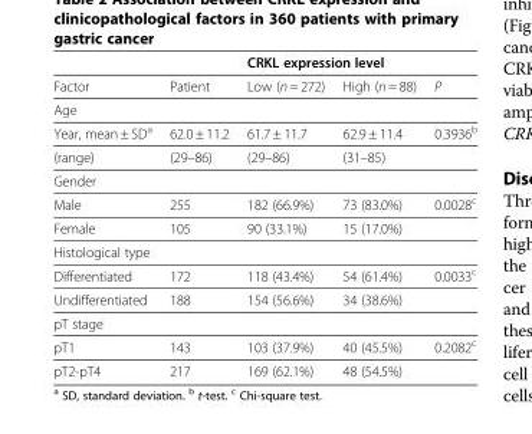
<table><thead><tr><td rowspan="2">Factor</td><td rowspan="2">Patient</td><td colspan="2">CRKL expression level</td><td rowspan="2">P</td></tr><tr><td>Low (n = 272)</td><td>High (n = 88)</td></tr></thead><tbody><tr><td colspan="5">Age</td></tr><tr><td>Year, mean ± SD<sup>a</sup></td><td>62.0 ± 11.2</td><td>61.7 ± 11.7</td><td>62.9 ± 11.4</td><td>0.3936<sup>b</sup></td></tr><tr><td>(range)</td><td>(29–86)</td><td>(29–86)</td><td>(31–85)</td><td></td></tr><tr><td colspan="5">Gender</td></tr><tr><td>Male</td><td>255</td><td>182 (66.9%)</td><td>73 (83.0%)</td><td>0.0028<sup>c</sup></td></tr><tr><td>Female</td><td>105</td><td>90 (33.1%)</td><td>15 (17.0%)</td><td></td></tr><tr><td colspan="5">Histological type</td></tr><tr><td>Differentiated</td><td>172</td><td>118 (43.4%)</td><td>54 (61.4%)</td><td>0.0033<sup>c</sup></td></tr><tr><td>Undifferentiated</td><td>188</td><td>154 (56.6%)</td><td>34 (38.6%)</td><td></td></tr><tr><td colspan="5">pT stage</td></tr><tr><td>pT1</td><td>143</td><td>103 (37.9%)</td><td>40 (45.5%)</td><td>0.2082<sup>c</sup></td></tr><tr><td>pT2-pT4</td><td>217</td><td>169 (62.1%)</td><td>48 (54.5%)</td><td></td></tr></tbody></table>